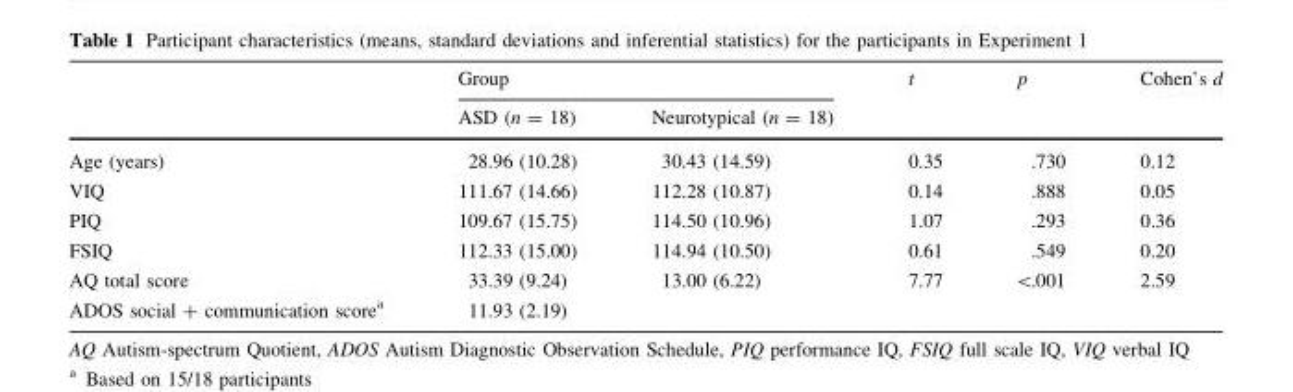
<table><thead><tr><td rowspan="2"></td><td colspan="2">Group</td><td rowspan="2">t</td><td rowspan="2">p</td><td rowspan="2">Cohen’s d</td></tr><tr><td>ASD (n = 18)</td><td>Neurotypical (n = 18)</td></tr></thead><tbody><tr><td>Age (years)</td><td>28.96 (10.28)</td><td>30.43 (14.59)</td><td>0.35</td><td>.730</td><td>0.12</td></tr><tr><td>VIQ</td><td>111.67 (14.66)</td><td>112.28 (10.87)</td><td>0.14</td><td>.888</td><td>0.05</td></tr><tr><td>PIQ</td><td>109.67 (15.75)</td><td>114.50 (10.96)</td><td>1.07</td><td>.293</td><td>0.36</td></tr><tr><td>FSIQ</td><td>112.33 (15.00)</td><td>114.94 (10.50)</td><td>0.61</td><td>.549</td><td>0.20</td></tr><tr><td>AQ total score</td><td>33.39 (9.24)</td><td>13.00 (6.22)</td><td>7.77</td><td>&lt;.001</td><td>2.59</td></tr><tr><td>ADOS social + communication score<sup>a</sup></td><td>11.93 (2.19)</td><td></td><td></td><td></td><td></td></tr></tbody></table>